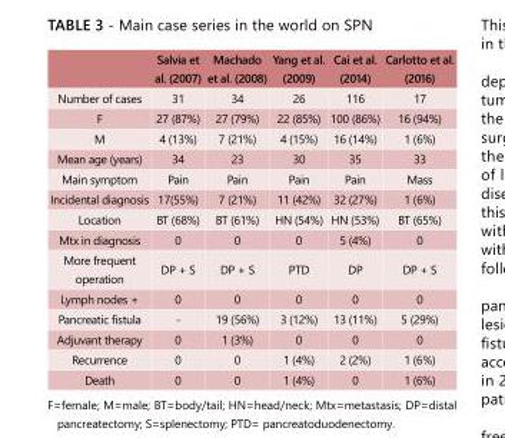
<table><thead><tr><td></td><td>Salvia et al. (2007)</td><td>Machado et al. (2008)</td><td>Yang et al. (2009)</td><td>Cai et al. (2014)</td><td>Carlotto et al. (2016)</td></tr></thead><tbody><tr><td>Number of cases</td><td>31</td><td>34</td><td>26</td><td>116</td><td>17</td></tr><tr><td>F</td><td>27 (87%)</td><td>27 (79%)</td><td>22 (85%)</td><td>100 (86%)</td><td>16 (94%)</td></tr><tr><td>M</td><td>4 (13%)</td><td>7 (21%)</td><td>4 (15%)</td><td>16 (14%)</td><td>1 (6%)</td></tr><tr><td>Mean age (years)</td><td>34</td><td>23</td><td>30</td><td>35</td><td>33</td></tr><tr><td>Main symptom</td><td>Pain</td><td>Pain</td><td>Pain</td><td>Pain</td><td>Mass</td></tr><tr><td>Incidental diagnosis</td><td>17(55%)</td><td>7 (21%)</td><td>11 (42%)</td><td>32 (27%)</td><td>1 (6%)</td></tr><tr><td>Location</td><td>BT (68%)</td><td>BT (61%)</td><td>HN (54%)</td><td>HN (53%)</td><td>BT (65%)</td></tr><tr><td>Mtx in diagnosis</td><td>0</td><td>0</td><td>0</td><td>5 (4%)</td><td>0</td></tr><tr><td>More frequent operation</td><td>DP + S</td><td>DP + S</td><td>PTD</td><td>DP</td><td>DP + S</td></tr><tr><td>Lymph nodes +</td><td>0</td><td>0</td><td>0</td><td>0</td><td>0</td></tr><tr><td>Pancreatic fistula</td><td>-</td><td>19 (56%)</td><td>3 (12%)</td><td>13 (11%)</td><td>5 (29%)</td></tr><tr><td>Adjuvant therapy</td><td>0</td><td>1 (3%)</td><td>0</td><td>0</td><td>0</td></tr><tr><td>Recurrence</td><td>0</td><td>0</td><td>1 (4%)</td><td>2 (2%)</td><td>1 (6%)</td></tr><tr><td>Death</td><td>0</td><td>0</td><td>1 (4%)</td><td>0</td><td>1 (6%)</td></tr></tbody></table>